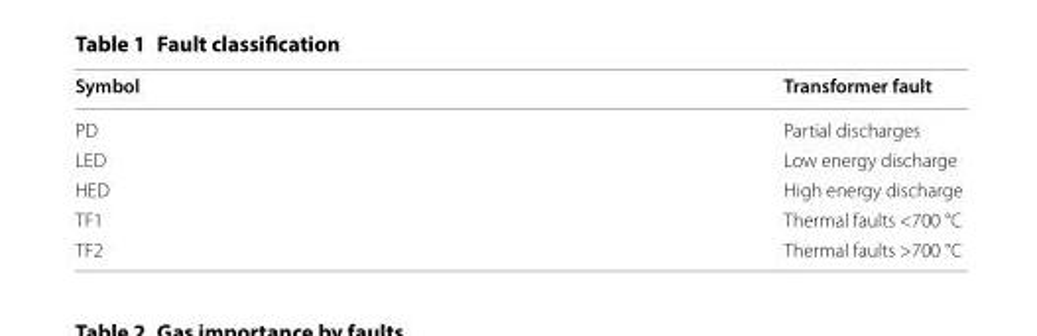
<table><thead><tr><td>Symbol</td><td>Transformer fault</td></tr></thead><tbody><tr><td>PD</td><td>Partial discharges</td></tr><tr><td>LED</td><td>Low energy discharge</td></tr><tr><td>HED</td><td>High energy discharge</td></tr><tr><td>TF1</td><td>Thermal faults &lt;700 °C</td></tr><tr><td>TF2</td><td>Thermal faults &gt;700 °C</td></tr></tbody></table>